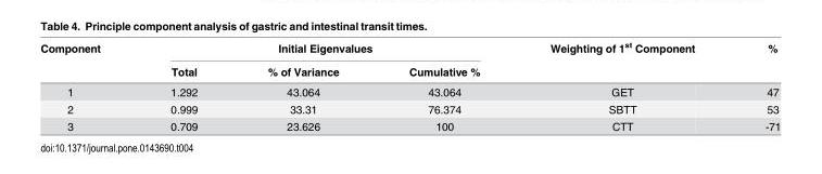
<table><thead><tr><td rowspan="2">Component</td><td colspan="3">Initial Eigenvalues</td><td rowspan="2">Weighting of 1<sup>st</sup> Component</td><td rowspan="2">%</td></tr><tr><td>Total</td><td>% of Variance</td><td>Cumulative %</td></tr></thead><tbody><tr><td>1</td><td>1.292</td><td>43.064</td><td>43.064</td><td>GET</td><td>47</td></tr><tr><td>2</td><td>0.999</td><td>33.31</td><td>76.374</td><td>SBTT</td><td>53</td></tr><tr><td>3</td><td>0.709</td><td>23.626</td><td>100</td><td>CTT</td><td>-71</td></tr></tbody></table>